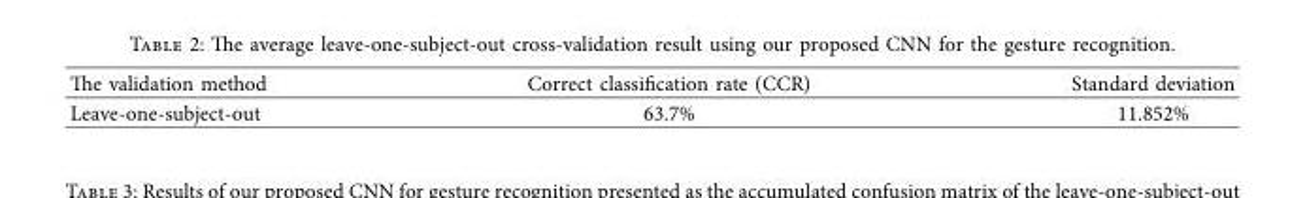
<table><thead><tr><td>Te validation method</td><td>Correct classification rate (CCR)</td><td>Standard deviation</td></tr></thead><tbody><tr><td>Leave-one-subject-out</td><td>63.7%</td><td>11.852%</td></tr></tbody></table>